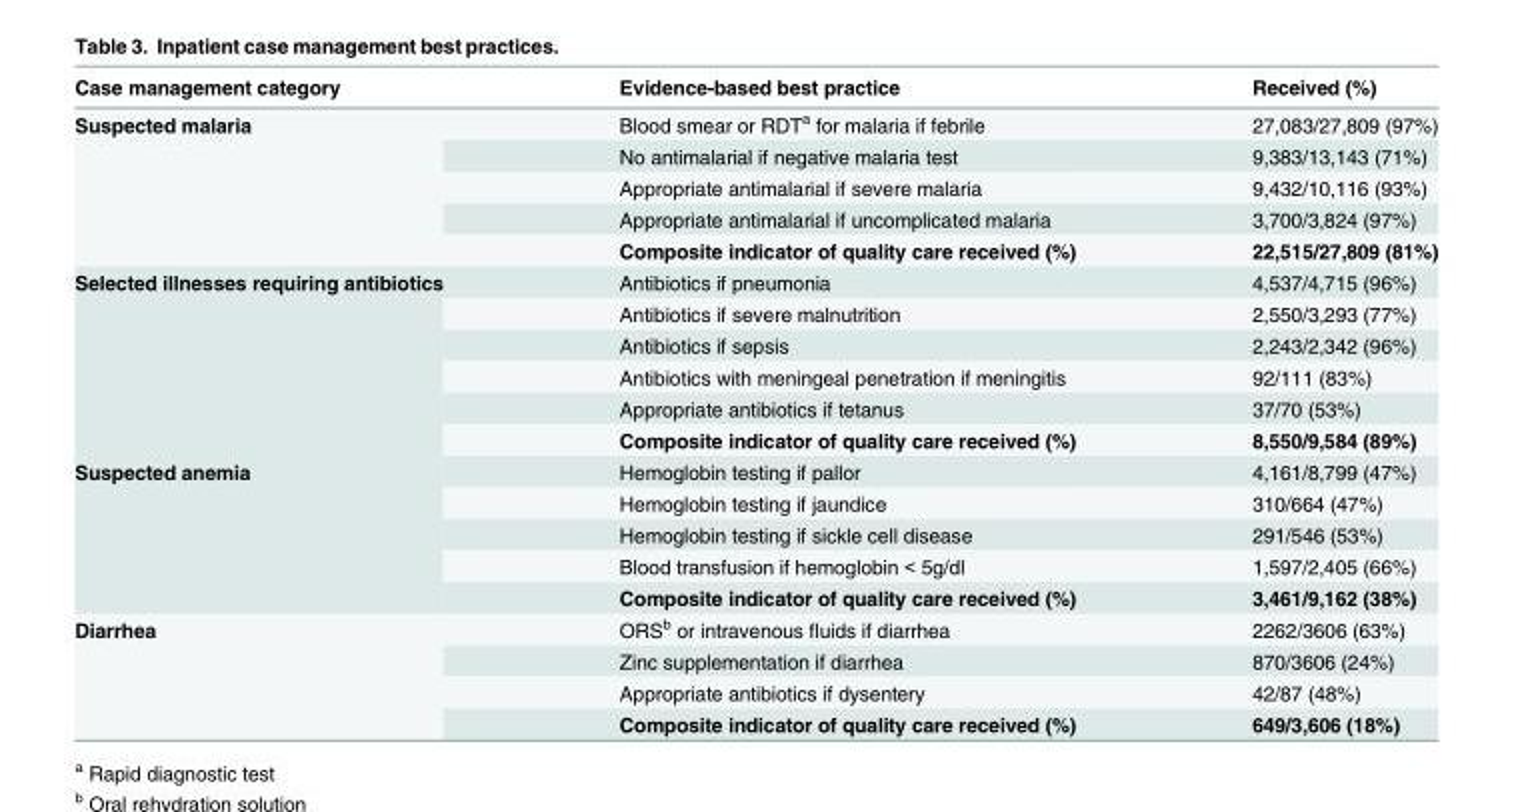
<table><thead><tr><td>Case management category</td><td>Evidence-based best practice</td><td>Received (%)</td></tr></thead><tbody><tr><td rowspan="5">Suspected malaria</td><td>Blood smear or RDT<sup>a</sup> for malaria if febrile</td><td>27,083/27,809 (97%)</td></tr><tr><td>No antimalarial if negative malaria test</td><td>9,383/13,143 (71%)</td></tr><tr><td>Appropriate antimalarial if severe malaria</td><td>9,432/10,116 (93%)</td></tr><tr><td>Appropriate antimalarial if uncomplicated malaria</td><td>3,700/3,824 (97%)</td></tr><tr><td>Composite indicator of quality care received (%)</td><td>22,515/27,809 (81%)</td></tr><tr><td rowspan="6">Selected illnesses requiring antibiotics</td><td>Antibiotics if pneumonia</td><td>4,537/4,715 (96%)</td></tr><tr><td>Antibiotics if severe malnutrition</td><td>2,550/3,293 (77%)</td></tr><tr><td>Antibiotics if sepsis</td><td>2,243/2,342 (96%)</td></tr><tr><td>Antibiotics with meningeal penetration if meningitis</td><td>92/111 (83%)</td></tr><tr><td>Appropriate antibiotics if tetanus</td><td>37/70 (53%)</td></tr><tr><td>Composite indicator of quality care received (%)</td><td>8,550/9,584 (89%)</td></tr><tr><td rowspan="5">Suspected anemia</td><td>Hemoglobin testing if pallor</td><td>4,161/8,799 (47%)</td></tr><tr><td>Hemoglobin testing if jaundice</td><td>310/664 (47%)</td></tr><tr><td>Hemoglobin testing if sickle cell disease</td><td>291/546 (53%)</td></tr><tr><td>Blood transfusion if hemoglobin &lt; 5g/dl</td><td>1,597/2,405 (66%)</td></tr><tr><td>Composite indicator of quality care received (%)</td><td>3,461/9,162 (38%)</td></tr><tr><td rowspan="4">Diarrhea</td><td>ORS<sup>b</sup> or intravenous fluids if diarrhea</td><td>2262/3606 (63%)</td></tr><tr><td>Zinc supplementation if diarrhea</td><td>870/3606 (24%)</td></tr><tr><td>Appropriate antibiotics if dysentery</td><td>42/87 (48%)</td></tr><tr><td>Composite indicator of quality care received (%)</td><td>649/3,606 (18%)</td></tr></tbody></table>